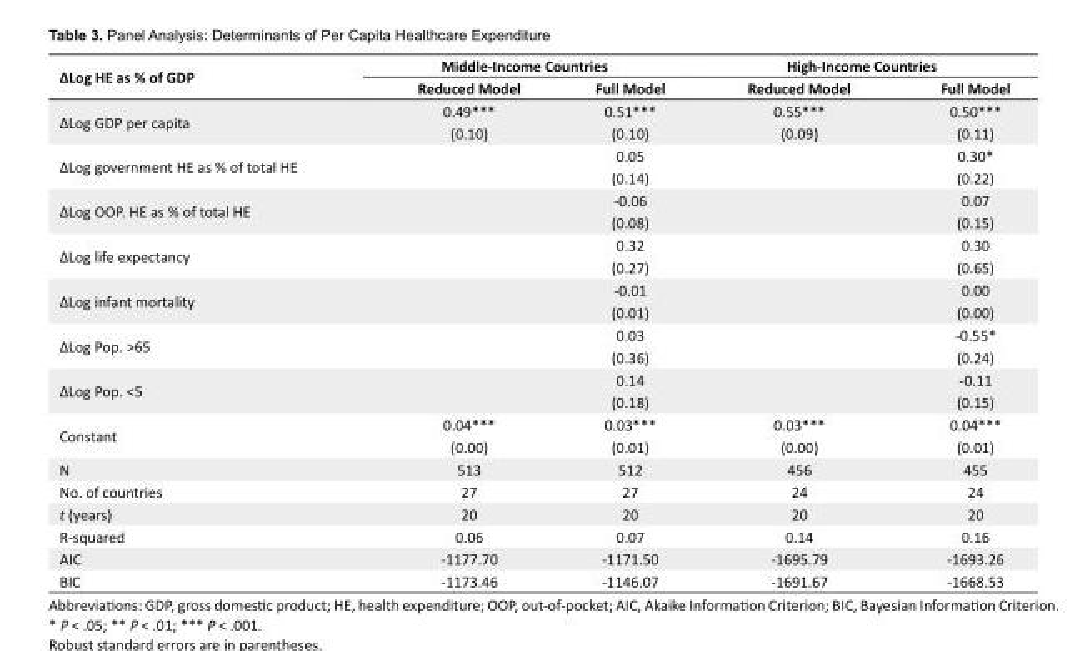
<table><tbody><tr><td rowspan="2">∆Log HE as % of GDP</td><td colspan="2">Middle-Income Countries</td><td colspan="2">High-Income Countries</td></tr><tr><td>Reduced Model</td><td>Full Model</td><td>Reduced Model</td><td>Full Model</td></tr><tr><td rowspan="2">∆Log GDP per capita</td><td>0.49***</td><td>0.51***</td><td>0.55***</td><td>0.50***</td></tr><tr><td>(0.10)</td><td>(0.10)</td><td>(0.09)</td><td>(0.11)</td></tr><tr><td rowspan="2">∆Log government HE as % of total HE</td><td></td><td>0.05</td><td></td><td>0.30*</td></tr><tr><td></td><td>(0.14)</td><td></td><td>(0.22)</td></tr><tr><td rowspan="2">∆Log OOP. HE as % of total HE</td><td></td><td>-0.06</td><td></td><td>0.07</td></tr><tr><td></td><td>(0.08)</td><td></td><td>(0.15)</td></tr><tr><td rowspan="2">∆Log life expectancy</td><td></td><td>0.32</td><td></td><td>0.30</td></tr><tr><td></td><td>(0.27)</td><td></td><td>(0.65)</td></tr><tr><td rowspan="2">∆Log infant mortality</td><td></td><td>-0.01</td><td></td><td>0.00</td></tr><tr><td></td><td>(0.01)</td><td></td><td>(0.00)</td></tr><tr><td rowspan="2">∆Log Pop. &gt;65</td><td></td><td>0.03</td><td></td><td>-0.55*</td></tr><tr><td></td><td>(0.36)</td><td></td><td>(0.24)</td></tr><tr><td rowspan="2">∆Log Pop. &lt;5</td><td></td><td>0.14</td><td></td><td>-0.11</td></tr><tr><td></td><td>(0.18)</td><td></td><td>(0.15)</td></tr><tr><td rowspan="2">Constant</td><td>0.04***</td><td>0.03***</td><td>0.03***</td><td>0.04***</td></tr><tr><td>(0.00)</td><td>(0.01)</td><td>(0.00)</td><td>(0.01)</td></tr><tr><td>N</td><td>513</td><td>512</td><td>456</td><td>455</td></tr><tr><td>No. of countries</td><td>27</td><td>27</td><td>24</td><td>24</td></tr><tr><td>t (years)</td><td>20</td><td>20</td><td>20</td><td>20</td></tr><tr><td>R-squared</td><td>0.06</td><td>0.07</td><td>0.14</td><td>0.16</td></tr><tr><td>AIC</td><td>-1177.70</td><td>-1171.50</td><td>-1695.79</td><td>-1693.26</td></tr><tr><td>BIC</td><td>-1173.46</td><td>-1146.07</td><td>-1691.67</td><td>-1668.53</td></tr></tbody></table>